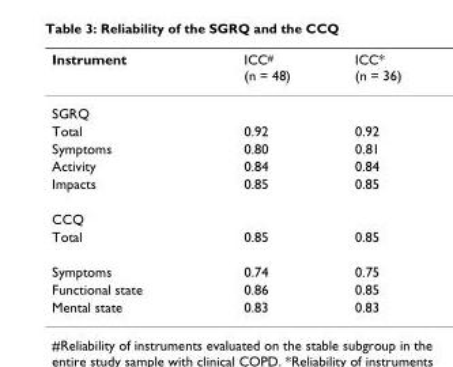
<table><thead><tr><td>Instrument</td><td>ICC<sup>#</sup> (n = 48)</td><td>ICC* (n = 36)</td></tr></thead><tbody><tr><td colspan="3">SGRQ</td></tr><tr><td>Total</td><td>0.92</td><td>0.92</td></tr><tr><td>Symptoms</td><td>0.80</td><td>0.81</td></tr><tr><td>Activity</td><td>0.84</td><td>0.84</td></tr><tr><td>Impacts</td><td>0.85</td><td>0.85</td></tr><tr><td colspan="3">CCQ</td></tr><tr><td>Total</td><td>0.85</td><td>0.85</td></tr><tr><td>Symptoms</td><td>0.74</td><td>0.75</td></tr><tr><td>Functional state</td><td>0.86</td><td>0.85</td></tr><tr><td>Mental state</td><td>0.83</td><td>0.83</td></tr></tbody></table>